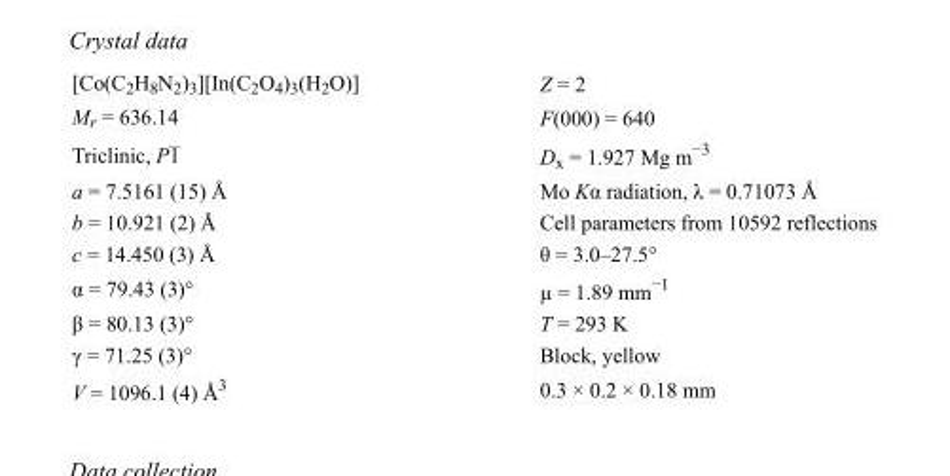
<table><tbody><tr><td>[Co(C<sub>2</sub>H<sub>8</sub>N<sub>2</sub>)<sub>3</sub>][In(C<sub>2</sub>O<sub>4</sub>)<sub>3</sub>(H<sub>2</sub>O)]</td><td>Z = 2</td></tr><tr><td>M<sub>r</sub> = 636.14</td><td>F(000) = 640</td></tr><tr><td>Triclinic, P1</td><td>D<sub>x</sub> = 1.927 Mg m<sup>−3</sup></td></tr><tr><td>a = 7.5161 (15) Å</td><td>Mo Kα radiation, λ = 0.71073 Å</td></tr><tr><td>b = 10.921 (2) Å</td><td>Cell parameters from 10592 reflections</td></tr><tr><td>c = 14.450 (3) Å</td><td>θ = 3.0–27.5°</td></tr><tr><td>α = 79.43 (3)°</td><td>µ = 1.89 mm<sup>−1</sup></td></tr><tr><td>β = 80.13 (3)°</td><td>T = 293 K</td></tr><tr><td>γ = 71.25 (3)°</td><td>Block, yellow</td></tr><tr><td>V = 1096.1 (4) Å<sup>3</sup></td><td>0.3 × 0.2 × 0.18 mm</td></tr></tbody></table>